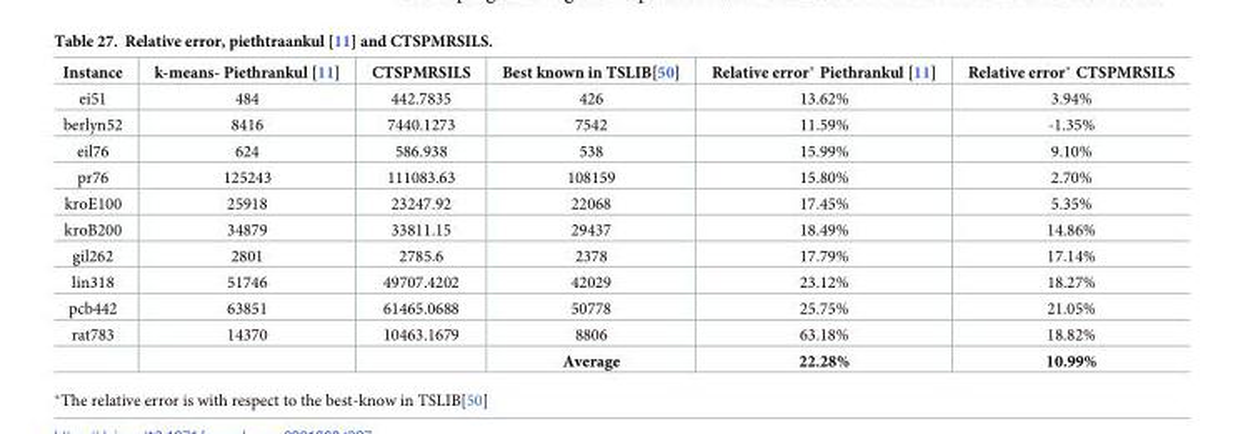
<table><thead><tr><td>Instance</td><td>k-means- Piethrankul [11]</td><td>CTSPMRSILS</td><td>Best known in TSLIB[50]</td><td>Relative error* Piethrankul [11]</td><td>Relative error* CTSPMRSILS</td></tr></thead><tbody><tr><td>ei51</td><td>484</td><td>442.7835</td><td>426</td><td>13.62%</td><td>3.94%</td></tr><tr><td>berlyn52</td><td>8416</td><td>7440.1273</td><td>7542</td><td>11.59%</td><td>-1.35%</td></tr><tr><td>eil76</td><td>624</td><td>586.938</td><td>538</td><td>15.99%</td><td>9.10%</td></tr><tr><td>pr76</td><td>125243</td><td>111083.63</td><td>108159</td><td>15.80%</td><td>2.70%</td></tr><tr><td>kroE100</td><td>25918</td><td>23247.92</td><td>22068</td><td>17.45%</td><td>5.35%</td></tr><tr><td>kroB200</td><td>34879</td><td>33811.15</td><td>29437</td><td>18.49%</td><td>14.86%</td></tr><tr><td>gil262</td><td>2801</td><td>2785.6</td><td>2378</td><td>17.79%</td><td>17.14%</td></tr><tr><td>lin318</td><td>51746</td><td>49707.4202</td><td>42029</td><td>23.12%</td><td>18.27%</td></tr><tr><td>pcb442</td><td>63851</td><td>61465.0688</td><td>50778</td><td>25.75%</td><td>21.05%</td></tr><tr><td rowspan="2">rat783</td><td>14370</td><td>10463.1679</td><td>8806</td><td>63.18%</td><td>18.82%</td></tr><tr><td></td><td></td><td>Average</td><td>22.28%</td><td>10.99%</td></tr></tbody></table>